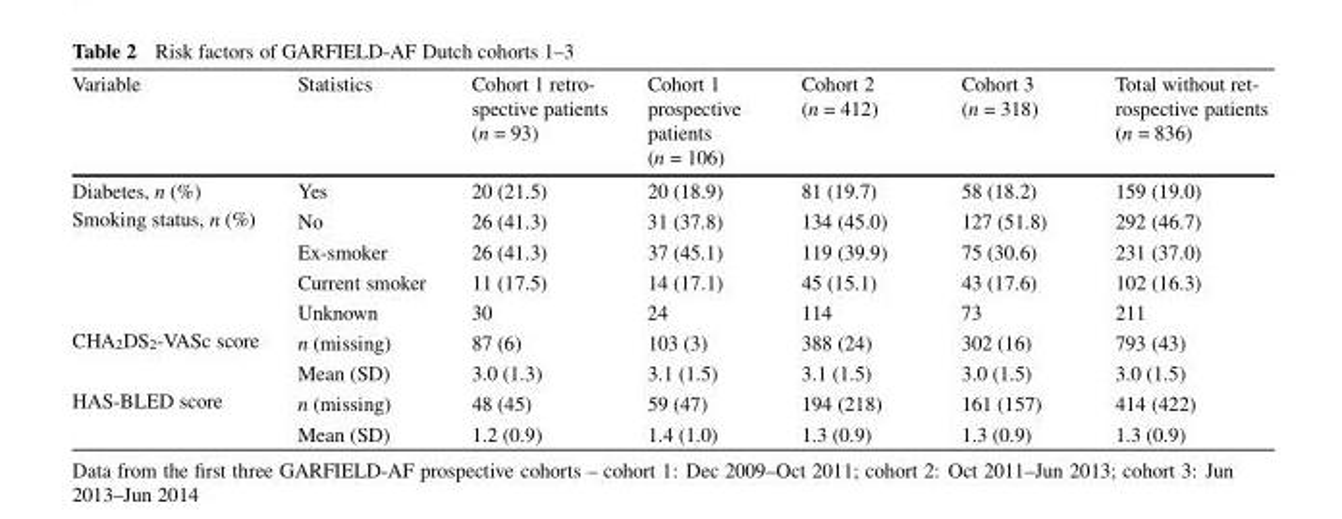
<table><thead><tr><td>Variable</td><td>Statistics</td><td>Cohort 1 retro- spective patients (n = 93)</td><td>Cohort 1 prospective patients (n = 106)</td><td>Cohort 2 (n = 412)</td><td>Cohort 3 (n = 318)</td><td>Total without ret- rospective patients (n = 836)</td></tr></thead><tbody><tr><td>Diabetes, n (%)</td><td>Yes</td><td>20 (21.5)</td><td>20 (18.9)</td><td>81 (19.7)</td><td>58 (18.2)</td><td>159 (19.0)</td></tr><tr><td rowspan="4">Smoking status, n (%)</td><td>No</td><td>26 (41.3)</td><td>31 (37.8)</td><td>134 (45.0)</td><td>127 (51.8)</td><td>292 (46.7)</td></tr><tr><td>Ex-smoker</td><td>26 (41.3)</td><td>37 (45.1)</td><td>119 (39.9)</td><td>75 (30.6)</td><td>231 (37.0)</td></tr><tr><td>Current smoker</td><td>11 (17.5)</td><td>14 (17.1)</td><td>45 (15.1)</td><td>43 (17.6)</td><td>102 (16.3)</td></tr><tr><td>Unknown</td><td>30</td><td>24</td><td>114</td><td>73</td><td>211</td></tr><tr><td rowspan="2">CHA<sub>2</sub>DS<sub>2</sub>-VASc score</td><td>n (missing)</td><td>87 (6)</td><td>103 (3)</td><td>388 (24)</td><td>302 (16)</td><td>793 (43)</td></tr><tr><td>Mean (SD)</td><td>3.0 (1.3)</td><td>3.1 (1.5)</td><td>3.1 (1.5)</td><td>3.0 (1.5)</td><td>3.0 (1.5)</td></tr><tr><td rowspan="2">HAS-BLED score</td><td>n (missing)</td><td>48 (45)</td><td>59 (47)</td><td>194 (218)</td><td>161 (157)</td><td>414 (422)</td></tr><tr><td>Mean (SD)</td><td>1.2 (0.9)</td><td>1.4 (1.0)</td><td>1.3 (0.9)</td><td>1.3 (0.9)</td><td>1.3 (0.9)</td></tr></tbody></table>